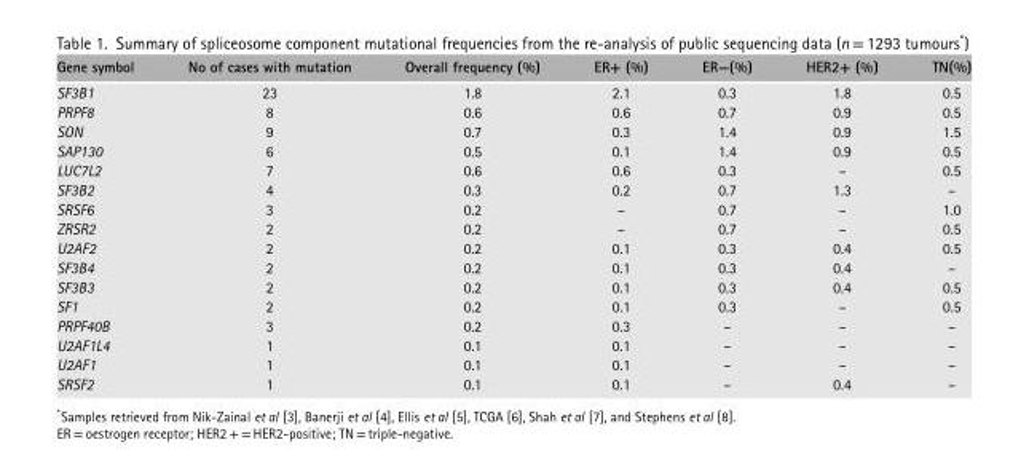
<table><thead><tr><td>Gene symbol</td><td>No of cases with mutation</td><td>Overall frequency (%)</td><td>ER+ (%)</td><td>ER−(%)</td><td>HER2+ (%)</td><td>TN(%)</td></tr></thead><tbody><tr><td>SF3B1</td><td>23</td><td>1.8</td><td>2.1</td><td>0.3</td><td>1.8</td><td>0.5</td></tr><tr><td>PRPF8</td><td>8</td><td>0.6</td><td>0.6</td><td>0.7</td><td>0.9</td><td>0.5</td></tr><tr><td>SON</td><td>9</td><td>0.7</td><td>0.3</td><td>1.4</td><td>0.9</td><td>1.5</td></tr><tr><td>SAP130</td><td>6</td><td>0.5</td><td>0.1</td><td>1.4</td><td>0.9</td><td>0.5</td></tr><tr><td>LUC7L2</td><td>7</td><td>0.6</td><td>0.6</td><td>0.3</td><td>–</td><td>0.5</td></tr><tr><td>SF3B2</td><td>4</td><td>0.3</td><td>0.2</td><td>0.7</td><td>1.3</td><td>–</td></tr><tr><td>SRSF6</td><td>3</td><td>0.2</td><td>–</td><td>0.7</td><td>–</td><td>1.0</td></tr><tr><td>ZRSR2</td><td>2</td><td>0.2</td><td>–</td><td>0.7</td><td>–</td><td>0.5</td></tr><tr><td>U2AF2</td><td>2</td><td>0.2</td><td>0.1</td><td>0.3</td><td>0.4</td><td>0.5</td></tr><tr><td>SF3B4</td><td>2</td><td>0.2</td><td>0.1</td><td>0.3</td><td>0.4</td><td>–</td></tr><tr><td>SF3B3</td><td>2</td><td>0.2</td><td>0.1</td><td>0.3</td><td>0.4</td><td>0.5</td></tr><tr><td>SF1</td><td>2</td><td>0.2</td><td>0.1</td><td>0.3</td><td>–</td><td>0.5</td></tr><tr><td>PRPF40B</td><td>3</td><td>0.2</td><td>0.3</td><td>–</td><td>–</td><td>–</td></tr><tr><td>U2AF1L4</td><td>1</td><td>0.1</td><td>0.1</td><td>–</td><td>–</td><td>–</td></tr><tr><td>U2AF1</td><td>1</td><td>0.1</td><td>0.1</td><td>–</td><td>–</td><td>–</td></tr><tr><td>SRSF2</td><td>1</td><td>0.1</td><td>0.1</td><td>–</td><td>0.4</td><td>–</td></tr></tbody></table>